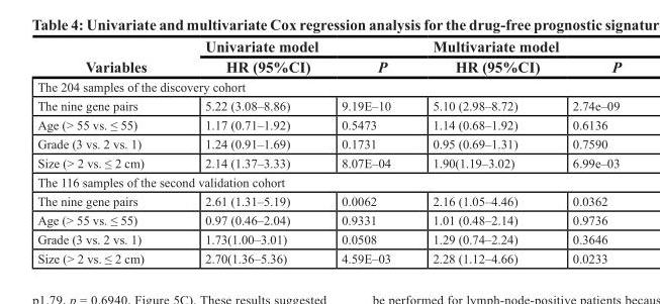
<table><thead><tr><td rowspan="2">Variables</td><td colspan="2">Univariate model</td><td colspan="2">Multivariate model</td></tr><tr><td>HR (95%CI)</td><td>P</td><td>HR (95%CI)</td><td>P</td></tr></thead><tbody><tr><td colspan="5">The 204 samples of the discovery cohort</td></tr><tr><td>The nine gene pairs</td><td>5.22 (3.08–8.86)</td><td>9.19E–10</td><td>5.10 (2.98–8.72)</td><td>2.74e–09</td></tr><tr><td>Age (&gt; 55 vs. ≤ 55)</td><td>1.17 (0.71–1.92)</td><td>0.5473</td><td>1.14 (0.68–1.92)</td><td>0.6136</td></tr><tr><td>Grade (3 vs. 2 vs. 1)</td><td>1.24 (0.91–1.69)</td><td>0.1731</td><td>0.95 (0.69–1.31)</td><td>0.7590</td></tr><tr><td>Size (&gt; 2 vs. ≤ 2 cm)</td><td>2.14 (1.37–3.33)</td><td>8.07E–04</td><td>1.90(1.19–3.02)</td><td>6.99e–03</td></tr><tr><td colspan="5">The 116 samples of the second validation cohort</td></tr><tr><td>The nine gene pairs</td><td>2.61 (1.31–5.19)</td><td>0.0062</td><td>2.16 (1.05–4.46)</td><td>0.0362</td></tr><tr><td>Age (&gt; 55 vs. ≤ 55)</td><td>0.97 (0.46–2.04)</td><td>0.9331</td><td>1.01 (0.48–2.14)</td><td>0.9736</td></tr><tr><td>Grade (3 vs. 2 vs. 1)</td><td>1.73(1.00–3.01)</td><td>0.0508</td><td>1.29 (0.74–2.24)</td><td>0.3646</td></tr><tr><td>Size (&gt; 2 vs. ≤ 2 cm)</td><td>2.70(1.36–5.36)</td><td>4.59E–03</td><td>2.28 (1.12–4.66)</td><td>0.0233</td></tr></tbody></table>